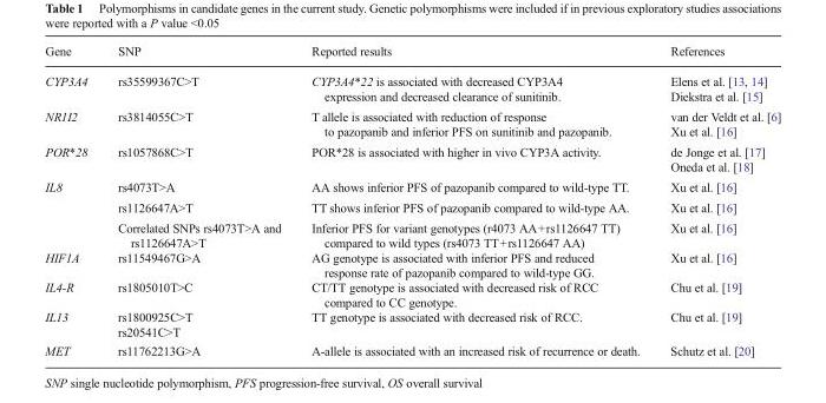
<table><thead><tr><td>Gene</td><td>SNP</td><td>Reported results</td><td>References</td></tr></thead><tbody><tr><td>CYP3A4</td><td>rs35599367C&gt;T</td><td>CYP3A4*22 is associated with decreased CYP3A4 expression and decreased clearance of sunitinib.</td><td>Elens et al. [13, 14] Diekstra et al. [15]</td></tr><tr><td>NR1I2</td><td>rs3814055C&gt;T</td><td>T allele is associated with reduction of response to pazopanib and inferior PFS on sunitinib and pazopanib.</td><td>van der Veldt et al. [6] Xu et al. [16]</td></tr><tr><td>POR*28</td><td>rs1057868C&gt;T</td><td>POR*28 is associated with higher in vivo CYP3A activity.</td><td>de Jonge et al. [17] Oneda et al. [18]</td></tr><tr><td rowspan="3">IL8</td><td>rs4073T&gt;A</td><td>AA shows inferior PFS of pazopanib compared to wild-type TT.</td><td>Xu et al. [16]</td></tr><tr><td>rs1126647A&gt;T</td><td>TT shows inferior PFS of pazopanib compared to wild-type AA.</td><td>Xu et al. [16]</td></tr><tr><td>Correlated SNPs rs4073T&gt;A and rs1126647A&gt;T</td><td>Inferior PFS for variant genotypes (r4073 AA+rs1126647 TT) compared to wild types (rs4073 TT+rs1126647 AA)</td><td>Xu et al. [16]</td></tr><tr><td>HIF1A</td><td>rs11549467G&gt;A</td><td>AG genotype is associated with inferior PFS and reduced response rate of pazopanib compared to wild-type GG.</td><td>Xu et al. [16]</td></tr><tr><td>IL4-R</td><td>rs1805010T&gt;C</td><td>CT/TT genotype is associated with decreased risk of RCC compared to CC genotype.</td><td>Chu et al. [19]</td></tr><tr><td rowspan="2">IL13</td><td>rs1800925C&gt;T</td><td rowspan="2">TT genotype is associated with decreased risk of RCC.</td><td rowspan="2">Chu et al. [19]</td></tr><tr><td>rs20541C&gt;T</td></tr><tr><td>MET</td><td>rs11762213G&gt;A</td><td>A-allele is associated with an increased risk of recurrence or death.</td><td>Schutz et al. [20]</td></tr></tbody></table>